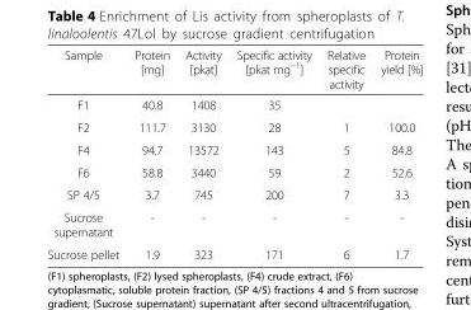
<table><thead><tr><td>Sample</td><td>Protein [mg]</td><td>Activity [pkat]</td><td>Specific activity [pkat mg<sup>−1</sup>]</td><td>Relative specific activity</td><td>Protein yield [%]</td></tr></thead><tbody><tr><td>F1</td><td>40.8</td><td>1408</td><td>35</td><td></td><td></td></tr><tr><td>F2</td><td>111.7</td><td>3130</td><td>28</td><td>1</td><td>100.0</td></tr><tr><td>F4</td><td>94.7</td><td>13572</td><td>143</td><td>5</td><td>84.8</td></tr><tr><td>F6</td><td>58.8</td><td>3440</td><td>59</td><td>2</td><td>52.6</td></tr><tr><td>SP 4/5</td><td>3.7</td><td>745</td><td>200</td><td>7</td><td>3.3</td></tr><tr><td>Sucrose supernatant</td><td>-</td><td>-</td><td>-</td><td>-</td><td>-</td></tr><tr><td>Sucrose pellet</td><td>1.9</td><td>323</td><td>171</td><td>6</td><td>1.7</td></tr></tbody></table>